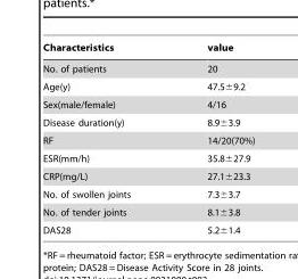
<table><thead><tr><td>Characteristics</td><td>value</td></tr></thead><tbody><tr><td>No. of patients</td><td>20</td></tr><tr><td>Age(y)</td><td>47.5±9.2</td></tr><tr><td>Sex(male/female)</td><td>4/16</td></tr><tr><td>Disease duration(y)</td><td>8.9±3.9</td></tr><tr><td>RF</td><td>14/20(70%)</td></tr><tr><td>ESR(mm/h)</td><td>35.8±27.9</td></tr><tr><td>CRP(mg/L)</td><td>27.1±23.3</td></tr><tr><td>No. of swollen joints</td><td>7.3±3.7</td></tr><tr><td>No. of tender joints</td><td>8.1±3.8</td></tr><tr><td>DAS28</td><td>5.2±1.4</td></tr></tbody></table>